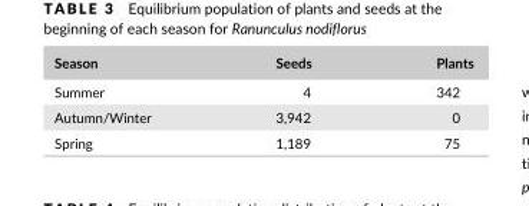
<table><thead><tr><td>Season</td><td>Seeds</td><td>Plants</td></tr></thead><tbody><tr><td>Summer</td><td>4</td><td>342</td></tr><tr><td>Autumn/Winter</td><td>3,942</td><td>0</td></tr><tr><td>Spring</td><td>1,189</td><td>75</td></tr></tbody></table>